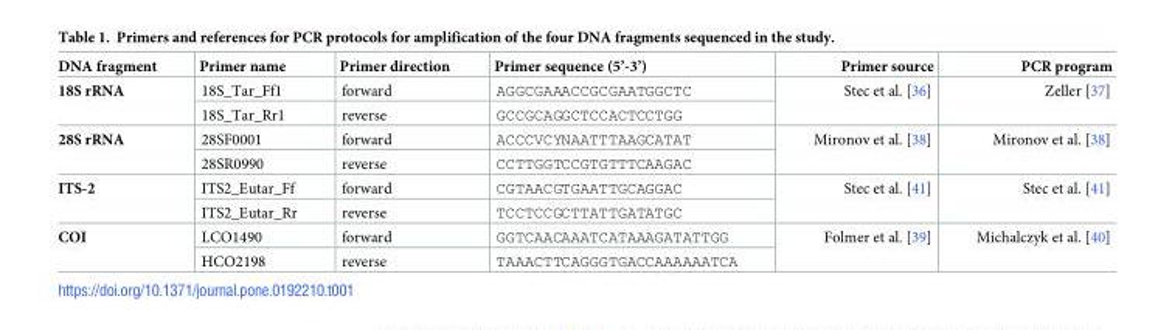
<table><thead><tr><td>DNA fragment</td><td>Primer name</td><td>Primer direction</td><td>Primer sequence (5’-3’)</td><td>Primer source</td><td>PCR program</td></tr></thead><tbody><tr><td rowspan="2">18S rRNA</td><td>18S_Tar_Ff1</td><td>forward</td><td>AGGCGAAACCGCGAATGGCTC</td><td rowspan="2">Stec et al. [36]</td><td rowspan="2">Zeller [37]</td></tr><tr><td>18S_Tar_Rr1</td><td>reverse</td><td>GCCGCAGGCTCCACTCCTGG</td></tr><tr><td rowspan="2">28S rRNA</td><td>28SF0001</td><td>forward</td><td>ACCCVCYNAATTTAAGCATAT</td><td rowspan="2">Mironov et al. [38]</td><td rowspan="2">Mironov et al. [38]</td></tr><tr><td>28SR0990</td><td>reverse</td><td>CCTTGGTCCGTGTTTCAAGAC</td></tr><tr><td rowspan="2">ITS-2</td><td>ITS2_Eutar_Ff</td><td>forward</td><td>CGTAACGTGAATTGCAGGAC</td><td rowspan="2">Stec et al. [41]</td><td rowspan="2">Stec et al. [41]</td></tr><tr><td>ITS2_Eutar_Rr</td><td>reverse</td><td>TCCTCCGCTTATTGATATGC</td></tr><tr><td rowspan="2">COI</td><td>LCO1490</td><td>forward</td><td>GGTCAACAAATCATAAAGATATTGG</td><td rowspan="2">Folmer et al. [39]</td><td rowspan="2">Michalczyk et al. [40]</td></tr><tr><td>HCO2198</td><td>reverse</td><td>TAAACTTCAGGGTGACCAAAAAATCA</td></tr></tbody></table>